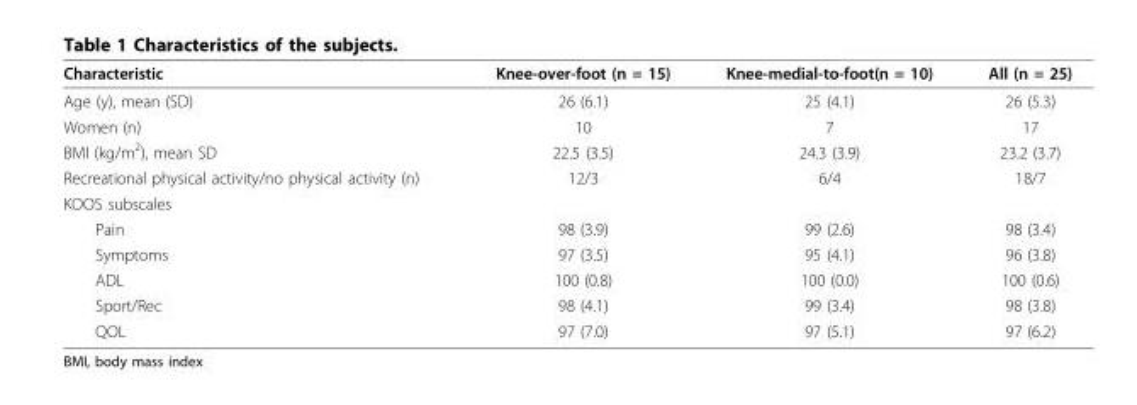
<table><thead><tr><td>Characteristic</td><td>Knee-over-foot (n = 15)</td><td>Knee-medial-to-foot(n = 10)</td><td>All (n = 25)</td></tr></thead><tbody><tr><td>Age (y), mean (SD)</td><td>26 (6.1)</td><td>25 (4.1)</td><td>26 (5.3)</td></tr><tr><td>Women (n)</td><td>10</td><td>7</td><td>17</td></tr><tr><td>BMI (kg/m<sup>2</sup>), mean SD</td><td>22.5 (3.5)</td><td>24.3 (3.9)</td><td>23.2 (3.7)</td></tr><tr><td>Recreational physical activity/no physical activity (n)</td><td>12/3</td><td>6/4</td><td>18/7</td></tr><tr><td colspan="4">KOOS subscales</td></tr><tr><td>Pain</td><td>98 (3.9)</td><td>99 (2.6)</td><td>98 (3.4)</td></tr><tr><td>Symptoms</td><td>97 (3.5)</td><td>95 (4.1)</td><td>96 (3.8)</td></tr><tr><td>ADL</td><td>100 (0.8)</td><td>100 (0.0)</td><td>100 (0.6)</td></tr><tr><td>Sport/Rec</td><td>98 (4.1)</td><td>99 (3.4)</td><td>98 (3.8)</td></tr><tr><td>QOL</td><td>97 (7.0)</td><td>97 (5.1)</td><td>97 (6.2)</td></tr></tbody></table>